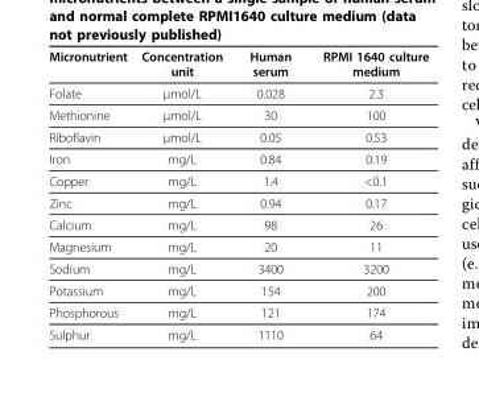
<table><thead><tr><td>Micronutrient</td><td>Concentration unit</td><td>Human serum</td><td>RPMI 1640 culture medium</td></tr></thead><tbody><tr><td>Folate</td><td>μmol/L</td><td>0.028</td><td>2.3</td></tr><tr><td>Methionine</td><td>μmol/L</td><td>30</td><td>100</td></tr><tr><td>Riboflavin</td><td>μmol/L</td><td>0.05</td><td>0.53</td></tr><tr><td>Iron</td><td>mg/L</td><td>0.84</td><td>0.19</td></tr><tr><td>Copper</td><td>mg/L</td><td>1.4</td><td>&lt;0.1</td></tr><tr><td>Zinc</td><td>mg/L</td><td>0.94</td><td>0.17</td></tr><tr><td>Calcium</td><td>mg/L</td><td>98</td><td>26</td></tr><tr><td>Magnesium</td><td>mg/L</td><td>20</td><td>11</td></tr><tr><td>Sodium</td><td>mg/L</td><td>3400</td><td>3200</td></tr><tr><td>Potassium</td><td>mg/L</td><td>154</td><td>200</td></tr><tr><td>Phosphorous</td><td>mg/L</td><td>121</td><td>174</td></tr><tr><td>Sulphur</td><td>mg/L</td><td>1110</td><td>64</td></tr></tbody></table>